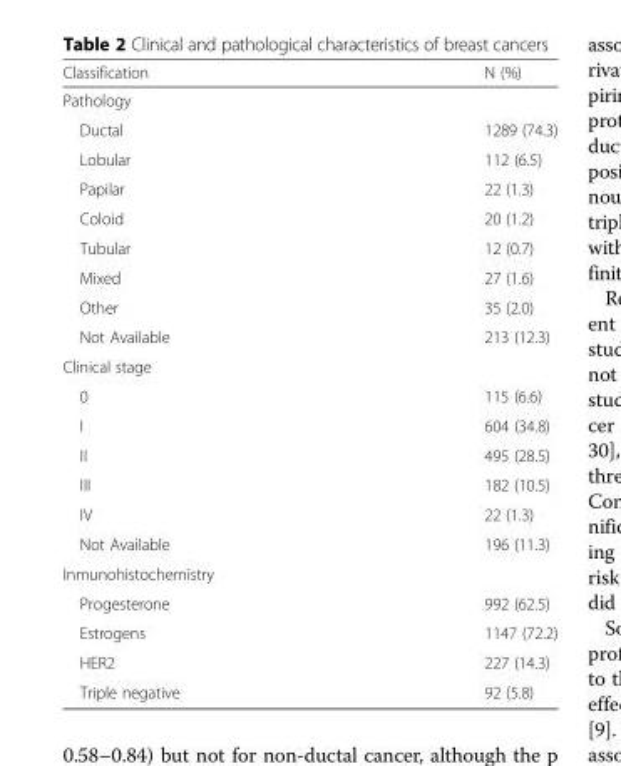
<table><thead><tr><td>Classification</td><td>N (%)</td></tr></thead><tbody><tr><td colspan="2">Pathology</td></tr><tr><td>Ductal</td><td>1289 (74.3)</td></tr><tr><td>Lobular</td><td>112 (6.5)</td></tr><tr><td>Papilar</td><td>22 (1.3)</td></tr><tr><td>Coloid</td><td>20 (1.2)</td></tr><tr><td>Tubular</td><td>12 (0.7)</td></tr><tr><td>Mixed</td><td>27 (1.6)</td></tr><tr><td>Other</td><td>35 (2.0)</td></tr><tr><td>Not Available</td><td>213 (12.3)</td></tr><tr><td colspan="2">Clinical stage</td></tr><tr><td>0</td><td>115 (6.6)</td></tr><tr><td>I</td><td>604 (34.8)</td></tr><tr><td>II</td><td>495 (28.5)</td></tr><tr><td>III</td><td>182 (10.5)</td></tr><tr><td>IV</td><td>22 (1.3)</td></tr><tr><td>Not Available</td><td>196 (11.3)</td></tr><tr><td colspan="2">Inmunohistochemistry</td></tr><tr><td>Progesterone</td><td>992 (62.5)</td></tr><tr><td>Estrogens</td><td>1147 (72.2)</td></tr><tr><td>HER2</td><td>227 (14.3)</td></tr><tr><td>Triple negative</td><td>92 (5.8)</td></tr></tbody></table>